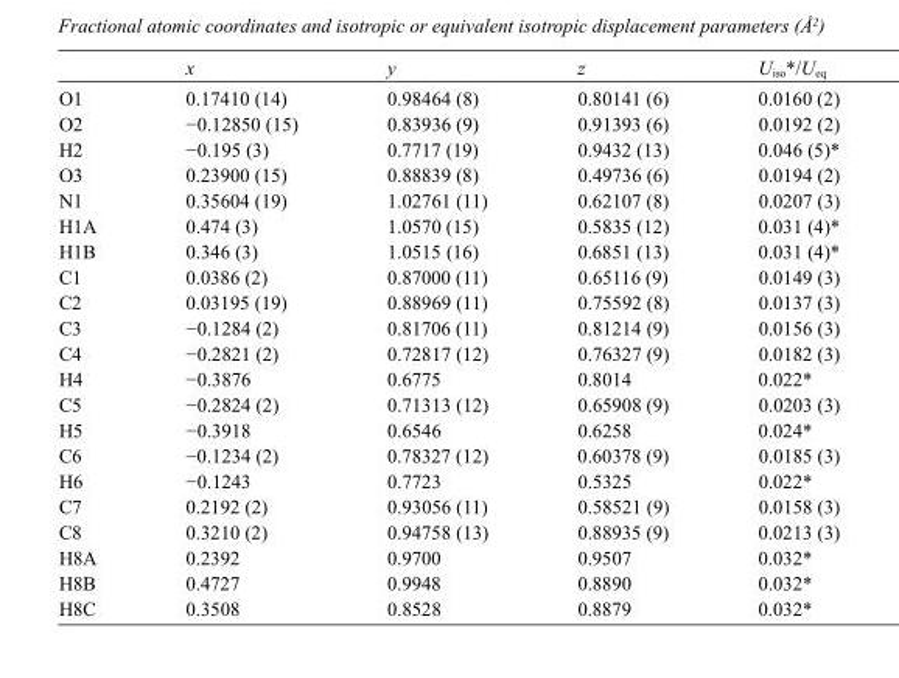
<table><thead><tr><td></td><td>x</td><td>y</td><td>z</td><td>U<sub>iso</sub>*/U<sub>eq</sub></td></tr></thead><tbody><tr><td>O1</td><td>0.17410 (14)</td><td>0.98464 (8)</td><td>0.80141 (6)</td><td>0.0160 (2)</td></tr><tr><td>O2</td><td>−0.12850 (15)</td><td>0.83936 (9)</td><td>0.91393 (6)</td><td>0.0192 (2)</td></tr><tr><td>H2</td><td>−0.195 (3)</td><td>0.7717 (19)</td><td>0.9432 (13)</td><td>0.046 (5)*</td></tr><tr><td>O3</td><td>0.23900 (15)</td><td>0.88839 (8)</td><td>0.49736 (6)</td><td>0.0194 (2)</td></tr><tr><td>N1</td><td>0.35604 (19)</td><td>1.02761 (11)</td><td>0.62107 (8)</td><td>0.0207 (3)</td></tr><tr><td>H1A</td><td>0.474 (3)</td><td>1.0570 (15)</td><td>0.5835 (12)</td><td>0.031 (4)*</td></tr><tr><td>H1B</td><td>0.346 (3)</td><td>1.0515 (16)</td><td>0.6851 (13)</td><td>0.031 (4)*</td></tr><tr><td>C1</td><td>0.0386 (2)</td><td>0.87000 (11)</td><td>0.65116 (9)</td><td>0.0149 (3)</td></tr><tr><td>C2</td><td>0.03195 (19)</td><td>0.88969 (11)</td><td>0.75592 (8)</td><td>0.0137 (3)</td></tr><tr><td>C3</td><td>−0.1284 (2)</td><td>0.81706 (11)</td><td>0.81214 (9)</td><td>0.0156 (3)</td></tr><tr><td>C4</td><td>−0.2821 (2)</td><td>0.72817 (12)</td><td>0.76327 (9)</td><td>0.0182 (3)</td></tr><tr><td>H4</td><td>−0.3876</td><td>0.6775</td><td>0.8014</td><td>0.022*</td></tr><tr><td>C5</td><td>−0.2824 (2)</td><td>0.71313 (12)</td><td>0.65908 (9)</td><td>0.0203 (3)</td></tr><tr><td>H5</td><td>−0.3918</td><td>0.6546</td><td>0.6258</td><td>0.024*</td></tr><tr><td>C6</td><td>−0.1234 (2)</td><td>0.78327 (12)</td><td>0.60378 (9)</td><td>0.0185 (3)</td></tr><tr><td>H6</td><td>−0.1243</td><td>0.7723</td><td>0.5325</td><td>0.022*</td></tr><tr><td>C7</td><td>0.2192 (2)</td><td>0.93056 (11)</td><td>0.58521 (9)</td><td>0.0158 (3)</td></tr><tr><td>C8</td><td>0.3210 (2)</td><td>0.94758 (13)</td><td>0.88935 (9)</td><td>0.0213 (3)</td></tr><tr><td>H8A</td><td>0.2392</td><td>0.9700</td><td>0.9507</td><td>0.032*</td></tr><tr><td>H8B</td><td>0.4727</td><td>0.9948</td><td>0.8890</td><td>0.032*</td></tr><tr><td>H8C</td><td>0.3508</td><td>0.8528</td><td>0.8879</td><td>0.032*</td></tr></tbody></table>